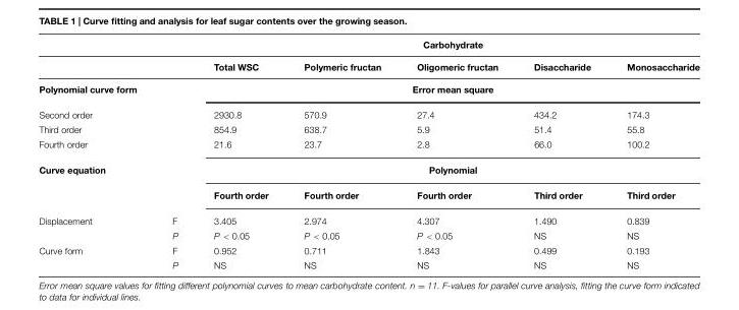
<table><thead><tr><td rowspan="2"></td><td rowspan="2"></td><td colspan="5">Carbohydrate</td></tr><tr><td>Total WSC</td><td>Polymeric fructan</td><td>Oligomeric fructan</td><td>Disaccharide</td><td>Monosaccharide</td></tr></thead><tbody><tr><td>Polynomial curve form</td><td></td><td colspan="5">Error mean square</td></tr><tr><td>Second order</td><td></td><td>2930.8</td><td>570.9</td><td>27.4</td><td>434.2</td><td>174.3</td></tr><tr><td>Third order</td><td></td><td>854.9</td><td>638.7</td><td>5.9</td><td>51.4</td><td>55.8</td></tr><tr><td>Fourth order</td><td></td><td>21.6</td><td>23.7</td><td>2.8</td><td>66.0</td><td>100.2</td></tr><tr><td rowspan="2">Curve equation</td><td></td><td colspan="5">Polynomial</td></tr><tr><td></td><td>Fourth order</td><td>Fourth order</td><td>Fourth order</td><td>Third order</td><td>Third order</td></tr><tr><td rowspan="2">Displacement</td><td>F</td><td>3.405</td><td>2.974</td><td>4.307</td><td>1.490</td><td>0.839</td></tr><tr><td>P</td><td>P &lt; 0.05</td><td>P &lt; 0.05</td><td>P &lt; 0.05</td><td>NS</td><td>NS</td></tr><tr><td rowspan="2">Curve form</td><td>F</td><td>0.952</td><td>0.711</td><td>1.843</td><td>0.499</td><td>0.193</td></tr><tr><td>P</td><td>NS</td><td>NS</td><td>NS</td><td>NS</td><td>NS</td></tr></tbody></table>